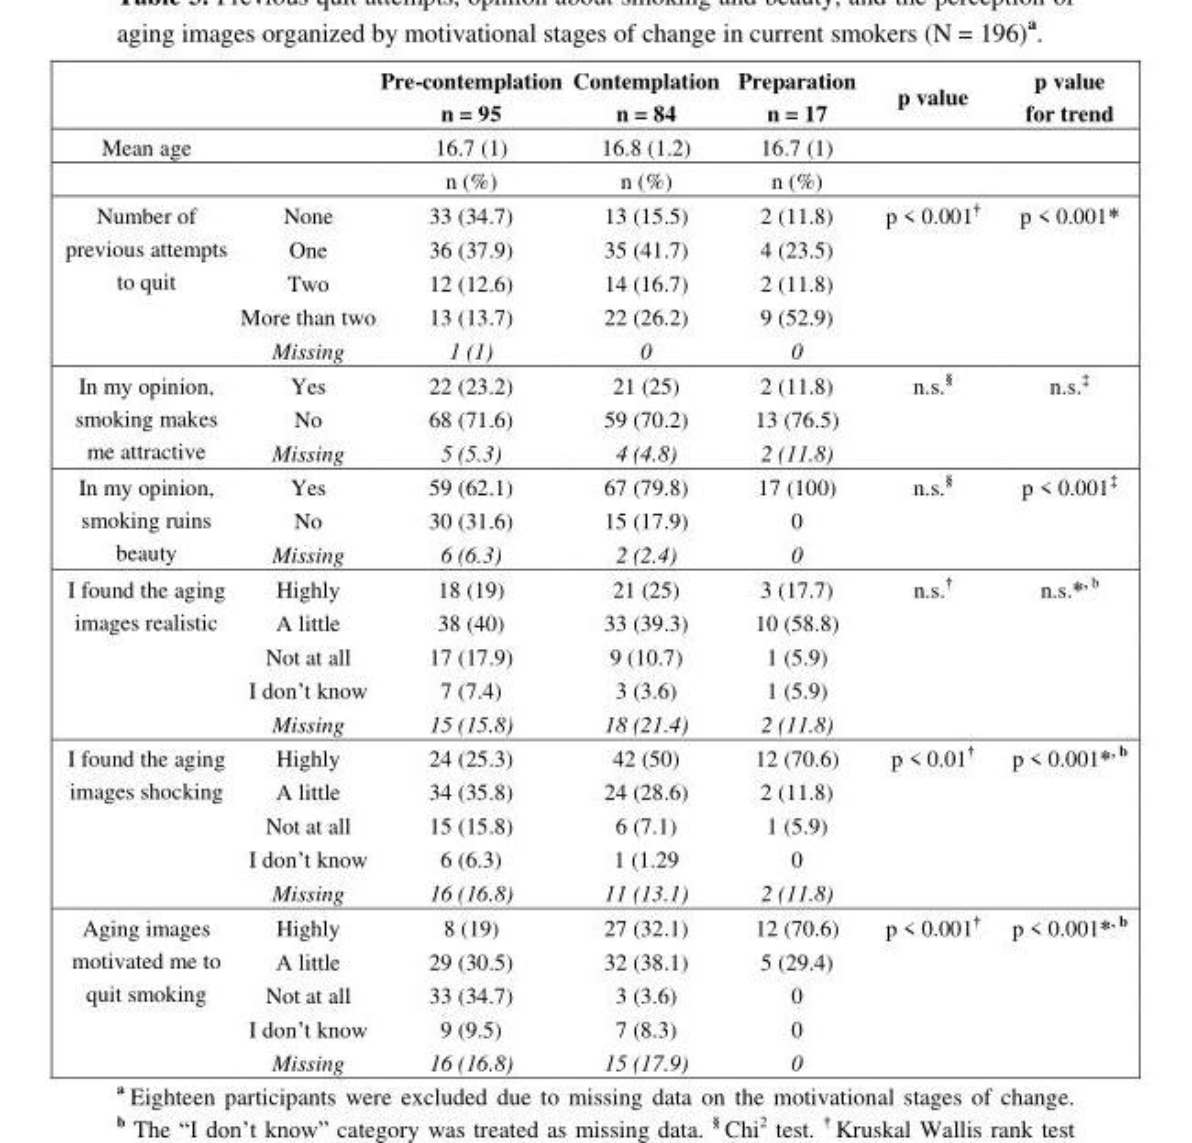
<table><thead><tr><td></td><td></td><td>Pre-contemplation n = 95</td><td>Contemplation n = 84</td><td>Preparation n = 17</td><td>p value</td><td>p value for trend</td></tr></thead><tbody><tr><td rowspan="2">Mean age</td><td></td><td>16.7 (1)</td><td>16.8 (1.2)</td><td>16.7 (1)</td><td></td><td></td></tr><tr><td></td><td>n (%)</td><td>n (%)</td><td>n (%)</td><td></td><td></td></tr><tr><td rowspan="5">Number of previous attempts to quit</td><td>None</td><td>33 (34.7)</td><td>13 (15.5)</td><td>2 (11.8)</td><td>p &lt; 0.001†</td><td>p &lt; 0.001*</td></tr><tr><td>One</td><td>36 (37.9)</td><td>35 (41.7)</td><td>4 (23.5)</td><td></td><td></td></tr><tr><td>Two</td><td>12 (12.6)</td><td>14 (16.7)</td><td>2 (11.8)</td><td></td><td></td></tr><tr><td>More than two</td><td>13 (13.7)</td><td>22 (26.2)</td><td>9 (52.9)</td><td></td><td></td></tr><tr><td>Missing</td><td>1 (1)</td><td>0</td><td>0</td><td></td><td></td></tr><tr><td rowspan="3">In my opinion, smoking makes me attractive</td><td>Yes</td><td>22 (23.2)</td><td>21 (25)</td><td>2 (11.8)</td><td>n.s.<sup>§</sup></td><td>n.s.‡</td></tr><tr><td>No</td><td>68 (71.6)</td><td>59 (70.2)</td><td>13 (76.5)</td><td></td><td></td></tr><tr><td>Missing</td><td>5 (5.3)</td><td>4 (4.8)</td><td>2 (11.8)</td><td></td><td></td></tr><tr><td rowspan="3">In my opinion, smoking ruins beauty</td><td>Yes</td><td>59 (62.1)</td><td>67 (79.8)</td><td>17 (100)</td><td>n.s.<sup>§</sup></td><td>p &lt; 0.001‡</td></tr><tr><td>No</td><td>30 (31.6)</td><td>15 (17.9)</td><td>0</td><td></td><td></td></tr><tr><td>Missing</td><td>6 (6.3)</td><td>2 (2.4)</td><td>0</td><td></td><td></td></tr><tr><td rowspan="5">I found the aging images realistic</td><td>Highly</td><td>18 (19)</td><td>21 (25)</td><td>3 (17.7)</td><td>n.s.†</td><td>n.s.*, b</td></tr><tr><td>A little</td><td>38 (40)</td><td>33 (39.3)</td><td>10 (58.8)</td><td></td><td></td></tr><tr><td>Not at all</td><td>17 (17.9)</td><td>9 (10.7)</td><td>1 (5.9)</td><td></td><td></td></tr><tr><td>I don’t know</td><td>7 (7.4)</td><td>3 (3.6)</td><td>1 (5.9)</td><td></td><td></td></tr><tr><td>Missing</td><td>15 (15.8)</td><td>18 (21.4)</td><td>2 (11.8)</td><td></td><td></td></tr><tr><td rowspan="5">I found the aging images shocking</td><td>Highly</td><td>24 (25.3)</td><td>42 (50)</td><td>12 (70.6)</td><td>p &lt; 0.01†</td><td>p &lt; 0.001*, b</td></tr><tr><td>A little</td><td>34 (35.8)</td><td>24 (28.6)</td><td>2 (11.8)</td><td></td><td></td></tr><tr><td>Not at all</td><td>15 (15.8)</td><td>6 (7.1)</td><td>1 (5.9)</td><td></td><td></td></tr><tr><td>I don’t know</td><td>6 (6.3)</td><td>1 (1.29</td><td>0</td><td></td><td></td></tr><tr><td>Missing</td><td>16 (16.8)</td><td>11 (13.1)</td><td>2 (11.8)</td><td></td><td></td></tr><tr><td rowspan="5">Aging images motivated me to quit smoking</td><td>Highly</td><td>8 (19)</td><td>27 (32.1)</td><td>12 (70.6)</td><td>p &lt; 0.001†</td><td>p &lt; 0.001*, b</td></tr><tr><td>A little</td><td>29 (30.5)</td><td>32 (38.1)</td><td>5 (29.4)</td><td></td><td></td></tr><tr><td>Not at all</td><td>33 (34.7)</td><td>3 (3.6)</td><td>0</td><td></td><td></td></tr><tr><td>I don’t know</td><td>9 (9.5)</td><td>7 (8.3)</td><td>0</td><td></td><td></td></tr><tr><td>Missing</td><td>16 (16.8)</td><td>15 (17.9)</td><td>0</td><td></td><td></td></tr></tbody></table>